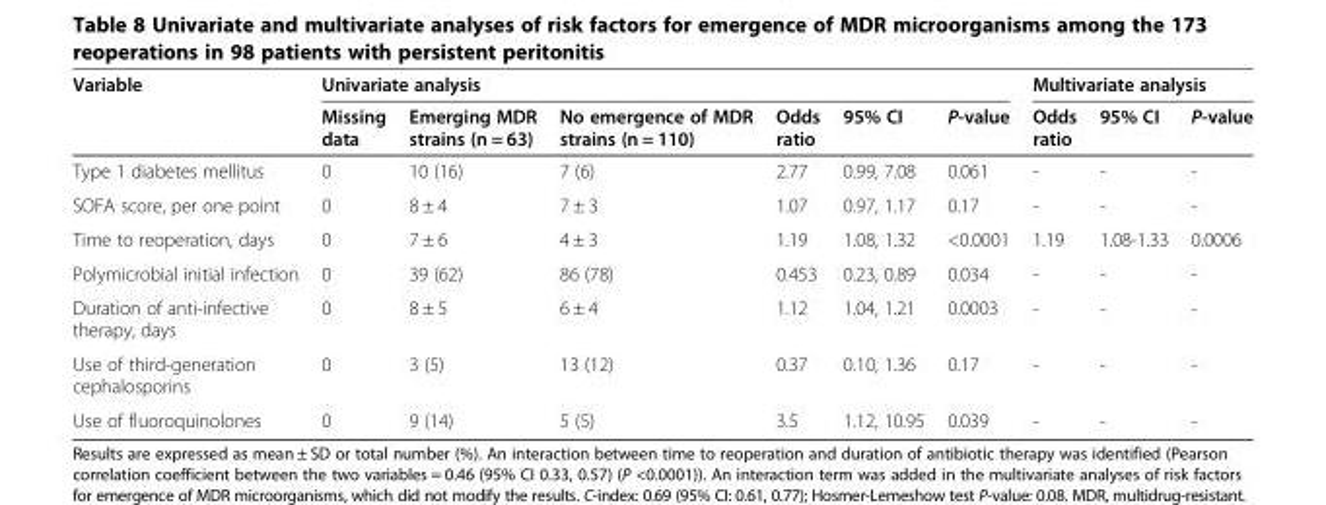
<table><thead><tr><td rowspan="2">Variable</td><td colspan="6">Univariate analysis</td><td colspan="3">Multivariate analysis</td></tr><tr><td>Missing data</td><td>Emerging MDR strains (n = 63)</td><td>No emergence of MDR strains (n = 110)</td><td>Odds ratio</td><td>95% CI</td><td>P-value</td><td>Odds ratio</td><td>95% CI</td><td>P-value</td></tr></thead><tbody><tr><td>Type 1 diabetes mellitus</td><td>0</td><td>10 (16)</td><td>7 (6)</td><td>2.77</td><td>0.99, 7.08</td><td>0.061</td><td>-</td><td>-</td><td>-</td></tr><tr><td>SOFA score, per one point</td><td>0</td><td>8 ± 4</td><td>7 ± 3</td><td>1.07</td><td>0.97, 1.17</td><td>0.17</td><td>-</td><td>-</td><td>-</td></tr><tr><td>Time to reoperation, days</td><td>0</td><td>7 ± 6</td><td>4 ± 3</td><td>1.19</td><td>1.08, 1.32</td><td>&lt;0.0001</td><td>1.19</td><td>1.08-1.33</td><td>0.0006</td></tr><tr><td>Polymicrobial initial infection</td><td>0</td><td>39 (62)</td><td>86 (78)</td><td>0.453</td><td>0.23, 0.89</td><td>0.034</td><td>-</td><td>-</td><td>-</td></tr><tr><td>Duration of anti-infective therapy, days</td><td>0</td><td>8 ± 5</td><td>6 ± 4</td><td>1.12</td><td>1.04, 1.21</td><td>0.0003</td><td>-</td><td>-</td><td>-</td></tr><tr><td>Use of third-generation cephalosporins</td><td>0</td><td>3 (5)</td><td>13 (12)</td><td>0.37</td><td>0.10, 1.36</td><td>0.17</td><td>-</td><td>-</td><td>-</td></tr><tr><td>Use of fluoroquinolones</td><td>0</td><td>9 (14)</td><td>5 (5)</td><td>3.5</td><td>1.12, 10.95</td><td>0.039</td><td>-</td><td>-</td><td>-</td></tr></tbody></table>